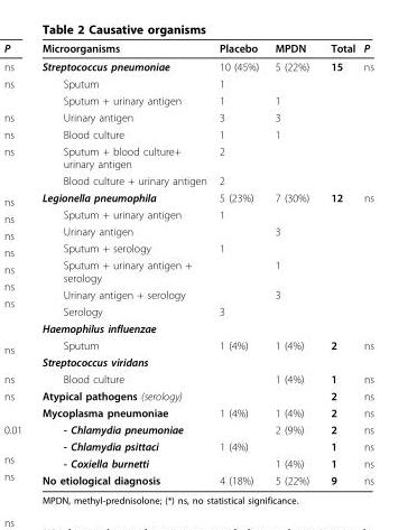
<table><thead><tr><td>Microorganisms</td><td>Placebo</td><td>MPDN</td><td>Total</td><td>P</td></tr></thead><tbody><tr><td>Streptococcus pneumoniae</td><td>10 (45%)</td><td>5 (22%)</td><td>15</td><td>ns</td></tr><tr><td>Sputum</td><td>1</td><td></td><td></td><td></td></tr><tr><td>Sputum + urinary antigen</td><td>1</td><td>1</td><td></td><td></td></tr><tr><td>Urinary antigen</td><td>3</td><td>3</td><td></td><td></td></tr><tr><td>Blood culture</td><td>1</td><td>1</td><td></td><td></td></tr><tr><td>Sputum + blood culture+ urinary antigen</td><td>2</td><td></td><td></td><td></td></tr><tr><td>Blood culture + urinary antigen</td><td>2</td><td></td><td></td><td></td></tr><tr><td>Legionella pneumophila</td><td>5 (23%)</td><td>7 (30%)</td><td>12</td><td>ns</td></tr><tr><td>Sputum + urinary antigen</td><td>1</td><td></td><td></td><td></td></tr><tr><td>Urinary antigen</td><td></td><td>3</td><td></td><td></td></tr><tr><td>Sputum + serology</td><td>1</td><td></td><td></td><td></td></tr><tr><td>Sputum + urinary antigen + serology</td><td></td><td>1</td><td></td><td></td></tr><tr><td>Urinary antigen + serology</td><td></td><td>3</td><td></td><td></td></tr><tr><td>Serology</td><td>3</td><td></td><td></td><td></td></tr><tr><td colspan="5">Haemophilus influenzae</td></tr><tr><td>Sputum</td><td>1 (4%)</td><td>1 (4%)</td><td>2</td><td>ns</td></tr><tr><td colspan="5">Streptococcus viridans</td></tr><tr><td>Blood culture</td><td></td><td>1 (4%)</td><td>1</td><td>ns</td></tr><tr><td>Atypical pathogens (serology)</td><td></td><td></td><td>2</td><td>ns</td></tr><tr><td>Mycoplasma pneumoniae</td><td>1 (4%)</td><td>1 (4%)</td><td>2</td><td>ns</td></tr><tr><td>- Chlamydia pneumoniae</td><td></td><td>2 (9%)</td><td>2</td><td>ns</td></tr><tr><td>- Chlamydia psittaci</td><td>1 (4%)</td><td></td><td>1</td><td>ns</td></tr><tr><td>- Coxiella burnetti</td><td></td><td>1 (4%)</td><td>1</td><td>ns</td></tr><tr><td>No etiological diagnosis</td><td>4 (18%)</td><td>5 (22%)</td><td>9</td><td>ns</td></tr></tbody></table>